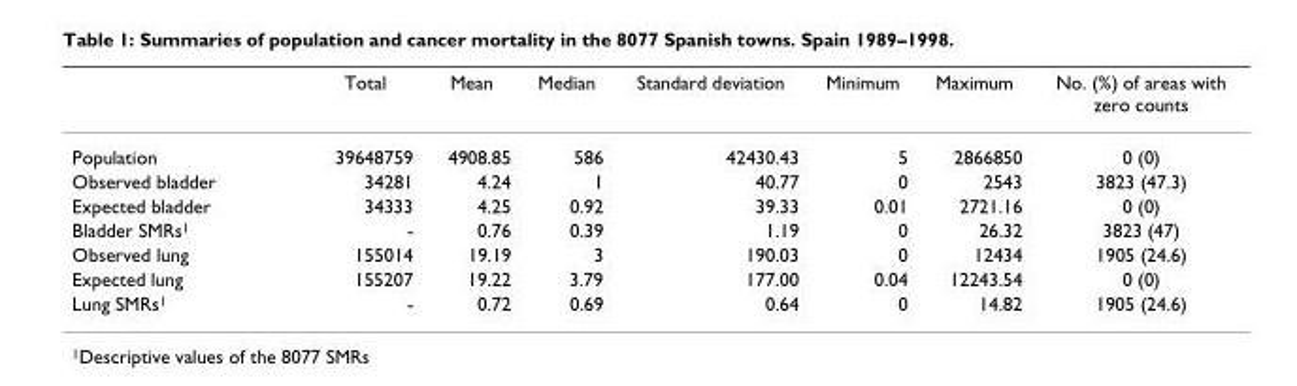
<table><thead><tr><td></td><td>Total</td><td>Mean</td><td>Median</td><td>Standard deviation</td><td>Minimum</td><td>Maximum</td><td>No. (%) of areas with zero counts</td></tr></thead><tbody><tr><td>Population</td><td>39648759</td><td>4908.85</td><td>586</td><td>42430.43</td><td>5</td><td>2866850</td><td>0 (0)</td></tr><tr><td>Observed bladder</td><td>34281</td><td>4.24</td><td>1</td><td>40.77</td><td>0</td><td>2543</td><td>3823 (47.3)</td></tr><tr><td>Expected bladder</td><td>34333</td><td>4.25</td><td>0.92</td><td>39.33</td><td>0.01</td><td>2721.16</td><td>0 (0)</td></tr><tr><td>Bladder SMRs<sup>1</sup></td><td>-</td><td>0.76</td><td>0.39</td><td>1.19</td><td>0</td><td>26.32</td><td>3823 (47)</td></tr><tr><td>Observed lung</td><td>155014</td><td>19.19</td><td>3</td><td>190.03</td><td>0</td><td>12434</td><td>1905 (24.6)</td></tr><tr><td>Expected lung</td><td>155207</td><td>19.22</td><td>3.79</td><td>177.00</td><td>0.04</td><td>12243.54</td><td>0 (0)</td></tr><tr><td>Lung SMRs<sup>1</sup></td><td>-</td><td>0.72</td><td>0.69</td><td>0.64</td><td>0</td><td>14.82</td><td>1905 (24.6)</td></tr></tbody></table>